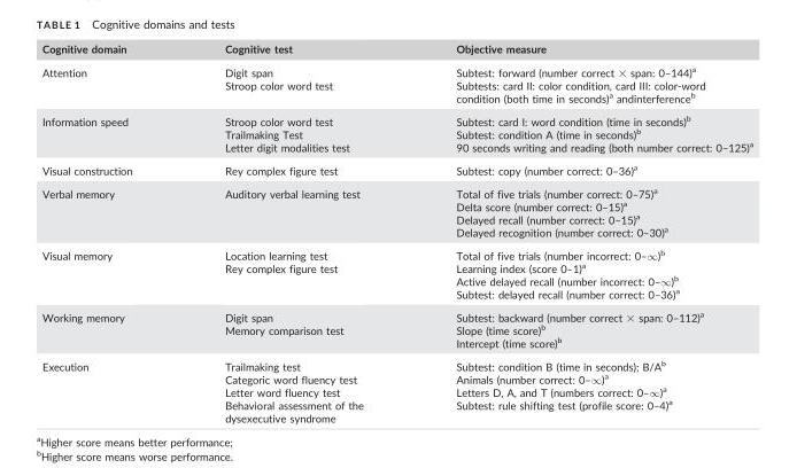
<table><thead><tr><td>Cognitive domain</td><td>Cognitive test</td><td>Objective measure</td></tr></thead><tbody><tr><td>Attention</td><td>Digit span Stroop color word test</td><td>Subtest: forward (number correct × span: 0–144)<sup>a</sup> Subtests: card II: color condition, card III: color-word condition (both time in seconds)<sup>a</sup> andinterference<sup>b</sup></td></tr><tr><td>Information speed</td><td>Stroop color word test Trailmaking Test Letter digit modalities test</td><td>Subtest: card I: word condition (time in seconds)<sup>b</sup> Subtest: condition A (time in seconds)<sup>b</sup> 90 seconds writing and reading (both number correct: 0–125)<sup>a</sup></td></tr><tr><td>Visual construction</td><td>Rey complex figure test</td><td>Subtest: copy (number correct: 0–36)<sup>a</sup></td></tr><tr><td>Verbal memory</td><td>Auditory verbal learning test</td><td>Total of five trials (number correct: 0–75)<sup>a</sup> Delta score (number correct: 0–15)<sup>a</sup> Delayed recall (number correct: 0–15)<sup>a</sup> Delayed recognition (number correct: 0–30)<sup>a</sup></td></tr><tr><td>Visual memory</td><td>Location learning test Rey complex figure test</td><td>Total of five trials (number incorrect: 0–∞)<sup>b</sup> Learning index (score 0–1)<sup>a</sup> Active delayed recall (number incorrect: 0–∞)<sup>b</sup> Subtest: delayed recall (number correct: 0–36)<sup>a</sup></td></tr><tr><td>Working memory</td><td>Digit span Memory comparison test</td><td>Subtest: backward (number correct × span: 0–112)<sup>a</sup> Slope (time score)<sup>b</sup> Intercept (time score)<sup>b</sup></td></tr><tr><td>Execution</td><td>Trailmaking test Categoric word fluency test Letter word fluency test Behavioral assessment of the dysexecutive syndrome</td><td>Subtest: condition B (time in seconds); B/A<sup>b</sup> Animals (number correct: 0–∞)<sup>a</sup> Letters D, A, and T (numbers correct: 0–∞)<sup>a</sup> Subtest: rule shifting test (profile score: 0–4)<sup>a</sup></td></tr></tbody></table>